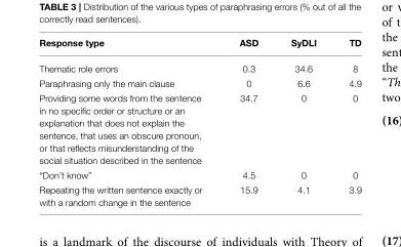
<table><thead><tr><td>Response type</td><td>ASD</td><td>SyDLI</td><td>TD</td></tr></thead><tbody><tr><td>Thematic role errors</td><td>0.3</td><td>34.6</td><td>8</td></tr><tr><td>Paraphrasing only the main clause</td><td>0</td><td>6.6</td><td>4.9</td></tr><tr><td>Providing some words from the sentence in no specific order or structure or an explanation that does not explain the sentence, that uses an obscure pronoun, or that reflects misunderstanding of the social situation described in the sentence</td><td>34.7</td><td>0</td><td>0</td></tr><tr><td>“Don’t know”</td><td>4.5</td><td>0</td><td>0</td></tr><tr><td>Repeating the written sentence exactly or with a random change in the sentence</td><td>15.9</td><td>4.1</td><td>3.9</td></tr></tbody></table>